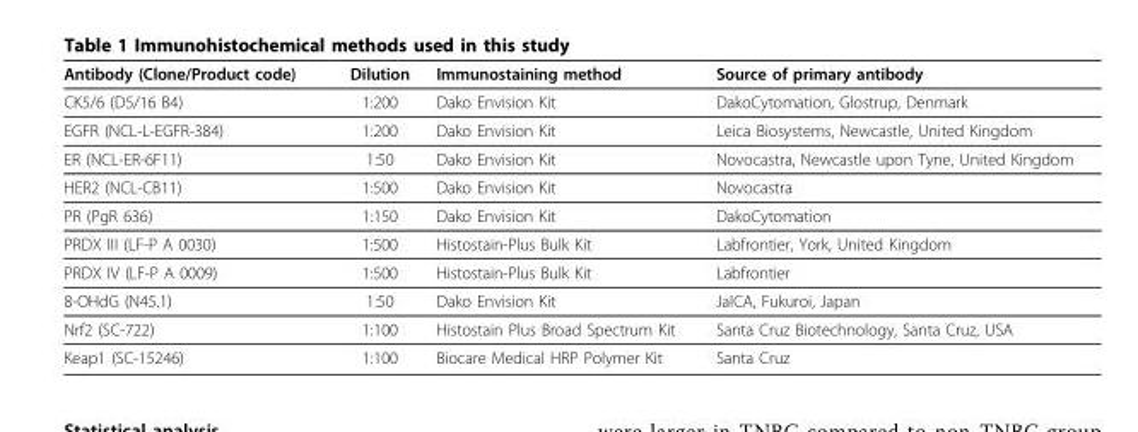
<table><thead><tr><td>Antibody (Clone/Product code)</td><td>Dilution</td><td>Immunostaining method</td><td>Source of primary antibody</td></tr></thead><tbody><tr><td>CK5/6 (D5/16 B4)</td><td>1:200</td><td>Dako Envision Kit</td><td>DakoCytomation, Glostrup, Denmark</td></tr><tr><td>EGFR (NCL-L-EGFR-384)</td><td>1:200</td><td>Dako Envision Kit</td><td>Leica Biosystems, Newcastle, United Kingdom</td></tr><tr><td>ER (NCL-ER-6F11)</td><td>1:50</td><td>Dako Envision Kit</td><td>Novocastra, Newcastle upon Tyne, United Kingdom</td></tr><tr><td>HER2 (NCL-CB11)</td><td>1:500</td><td>Dako Envision Kit</td><td>Novocastra</td></tr><tr><td>PR (PgR 636)</td><td>1:150</td><td>Dako Envision Kit</td><td>DakoCytomation</td></tr><tr><td>PRDX III (LF-P A 0030)</td><td>1:500</td><td>Histostain-Plus Bulk Kit</td><td>Labfrontier, York, United Kingdom</td></tr><tr><td>PRDX IV (LF-P A 0009)</td><td>1:500</td><td>Histostain-Plus Bulk Kit</td><td>Labfrontier</td></tr><tr><td>8-OHdG (N45.1)</td><td>1:50</td><td>Dako Envision Kit</td><td>JaICA, Fukuroi, Japan</td></tr><tr><td>Nrf2 (SC-722)</td><td>1:100</td><td>Histostain Plus Broad Spectrum Kit</td><td>Santa Cruz Biotechnology, Santa Cruz, USA</td></tr><tr><td>Keap1 (SC-15246)</td><td>1:100</td><td>Biocare Medical HRP Polymer Kit</td><td>Santa Cruz</td></tr></tbody></table>